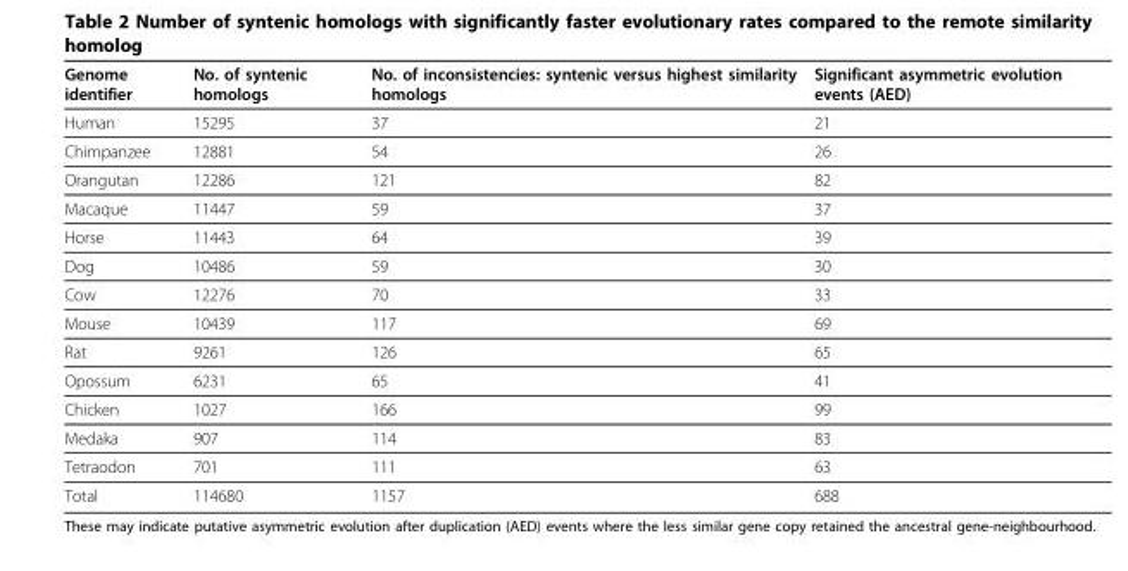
<table><thead><tr><td>Genome identifier</td><td>No. of syntenic homologs</td><td>No. of inconsistencies: syntenic versus highest similarity homologs</td><td>Significant asymmetric evolution events (AED)</td></tr></thead><tbody><tr><td>Human</td><td>15295</td><td>37</td><td>21</td></tr><tr><td>Chimpanzee</td><td>12881</td><td>54</td><td>26</td></tr><tr><td>Orangutan</td><td>12286</td><td>121</td><td>82</td></tr><tr><td>Macaque</td><td>11447</td><td>59</td><td>37</td></tr><tr><td>Horse</td><td>11443</td><td>64</td><td>39</td></tr><tr><td>Dog</td><td>10486</td><td>59</td><td>30</td></tr><tr><td>Cow</td><td>12276</td><td>70</td><td>33</td></tr><tr><td>Mouse</td><td>10439</td><td>117</td><td>69</td></tr><tr><td>Rat</td><td>9261</td><td>126</td><td>65</td></tr><tr><td>Opossum</td><td>6231</td><td>65</td><td>41</td></tr><tr><td>Chicken</td><td>1027</td><td>166</td><td>99</td></tr><tr><td>Medaka</td><td>907</td><td>114</td><td>83</td></tr><tr><td>Tetraodon</td><td>701</td><td>111</td><td>63</td></tr><tr><td>Total</td><td>114680</td><td>1157</td><td>688</td></tr></tbody></table>